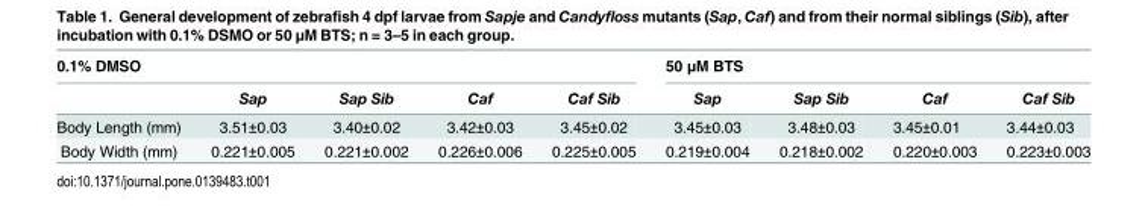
<table><thead><tr><td colspan="5">0.1% DMSO</td><td colspan="4">50 μM BTS</td></tr><tr><td></td><td>Sap</td><td>Sap Sib</td><td>Caf</td><td>Caf Sib</td><td>Sap</td><td>Sap Sib</td><td>Caf</td><td>Caf Sib</td></tr></thead><tbody><tr><td>Body Length (mm)</td><td>3.51±0.03</td><td>3.40±0.02</td><td>3.42±0.03</td><td>3.45±0.02</td><td>3.45±0.03</td><td>3.48±0.03</td><td>3.45±0.01</td><td>3.44±0.03</td></tr><tr><td>Body Width (mm)</td><td>0.221±0.005</td><td>0.221±0.002</td><td>0.226±0.006</td><td>0.225±0.005</td><td>0.219±0.004</td><td>0.218±0.002</td><td>0.220±0.003</td><td>0.223±0.003</td></tr></tbody></table>